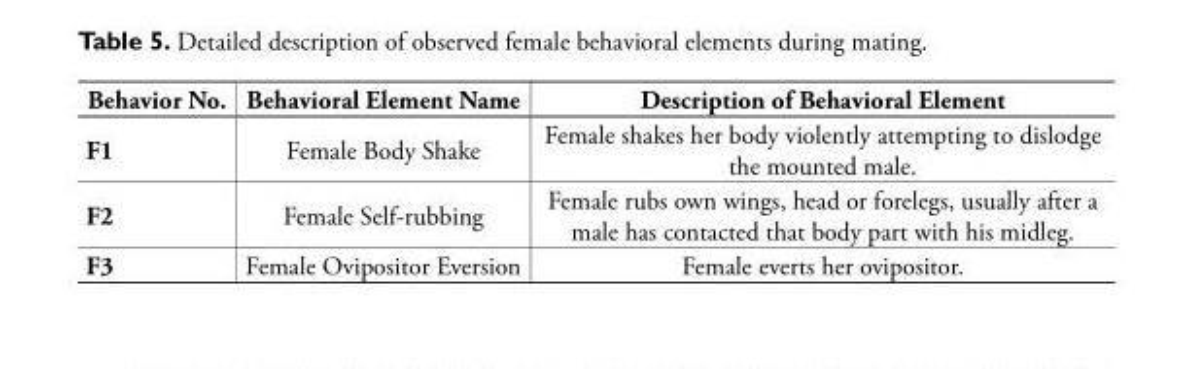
<table><thead><tr><td>Behavior No.</td><td>Behavioral Element Name</td><td>Description of Behavioral Element</td></tr></thead><tbody><tr><td>F1</td><td>Female Body Shake</td><td>Female shakes her body violently attempting to dislodge the mounted male.</td></tr><tr><td>F2</td><td>Female Self-rubbing</td><td>Female rubs own wings, head or forelegs, usually after a male has contacted that body part with his midleg.</td></tr><tr><td>F3</td><td>Female Ovipositor Eversion</td><td>Female everts her ovipositor.</td></tr></tbody></table>